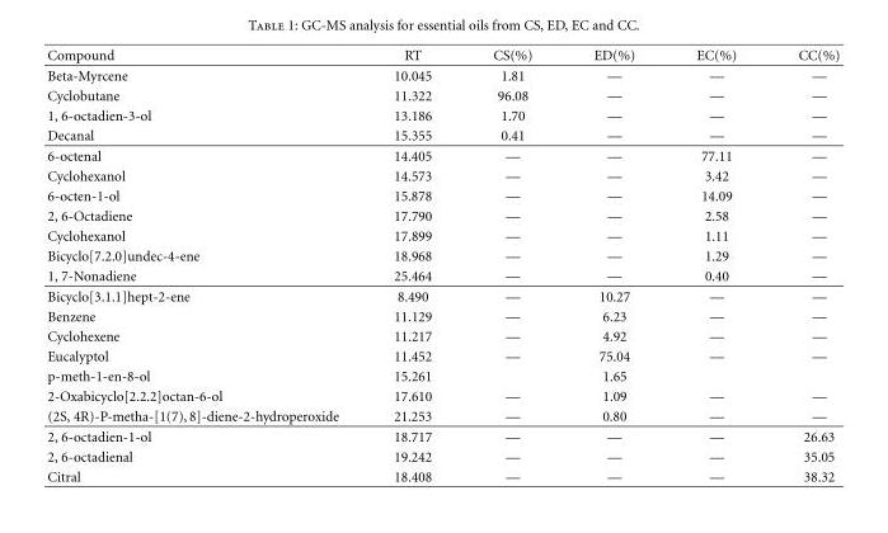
<table><thead><tr><td>Compound</td><td>RT</td><td>CS(%)</td><td>ED(%)</td><td>EC(%)</td><td>CC(%)</td></tr></thead><tbody><tr><td>Beta-Myrcene</td><td>10.045</td><td>1.81</td><td>—</td><td>—</td><td>—</td></tr><tr><td>Cyclobutane</td><td>11.322</td><td>96.08</td><td>—</td><td>—</td><td>—</td></tr><tr><td>1, 6-octadien-3-ol</td><td>13.186</td><td>1.70</td><td>—</td><td>—</td><td>—</td></tr><tr><td>Decanal</td><td>15.355</td><td>0.41</td><td>—</td><td>—</td><td>—</td></tr><tr><td>6-octenal</td><td>14.405</td><td>—</td><td>—</td><td>77.11</td><td>—</td></tr><tr><td>Cyclohexanol</td><td>14.573</td><td>—</td><td>—</td><td>3.42</td><td>—</td></tr><tr><td>6-octen-1-ol</td><td>15.878</td><td>—</td><td>—</td><td>14.09</td><td>—</td></tr><tr><td>2, 6-Octadiene</td><td>17.790</td><td>—</td><td>—</td><td>2.58</td><td>—</td></tr><tr><td>Cyclohexanol</td><td>17.899</td><td>—</td><td>—</td><td>1.11</td><td>—</td></tr><tr><td>Bicyclo[7.2.0]undec-4-ene</td><td>18.968</td><td>—</td><td>—</td><td>1.29</td><td>—</td></tr><tr><td>1, 7-Nonadiene</td><td>25.464</td><td>—</td><td>—</td><td>0.40</td><td>—</td></tr><tr><td>Bicyclo[3.1.1]hept-2-ene</td><td>8.490</td><td>—</td><td>10.27</td><td>—</td><td>—</td></tr><tr><td>Benzene</td><td>11.129</td><td>—</td><td>6.23</td><td>—</td><td>—</td></tr><tr><td>Cyclohexene</td><td>11.217</td><td>—</td><td>4.92</td><td>—</td><td>—</td></tr><tr><td>Eucalyptol</td><td>11.452</td><td>—</td><td>75.04</td><td>—</td><td>—</td></tr><tr><td>p-meth-1-en-8-ol</td><td>15.261</td><td></td><td>1.65</td><td></td><td></td></tr><tr><td>2-Oxabicyclo[2.2.2]octan-6-ol</td><td>17.610</td><td>—</td><td>1.09</td><td>—</td><td>—</td></tr><tr><td>(2S, 4R)-P-metha-[1(7),8]-diene-2-hydroperoxide</td><td>21.253</td><td>—</td><td>0.80</td><td>—</td><td>—</td></tr><tr><td>2, 6-octadien-1-ol</td><td>18.717</td><td>—</td><td>—</td><td>—</td><td>26.63</td></tr><tr><td>2, 6-octadienal</td><td>19.242</td><td>—</td><td>—</td><td>—</td><td>35.05</td></tr><tr><td>Citral</td><td>18.408</td><td>—</td><td>—</td><td>—</td><td>38.32</td></tr></tbody></table>